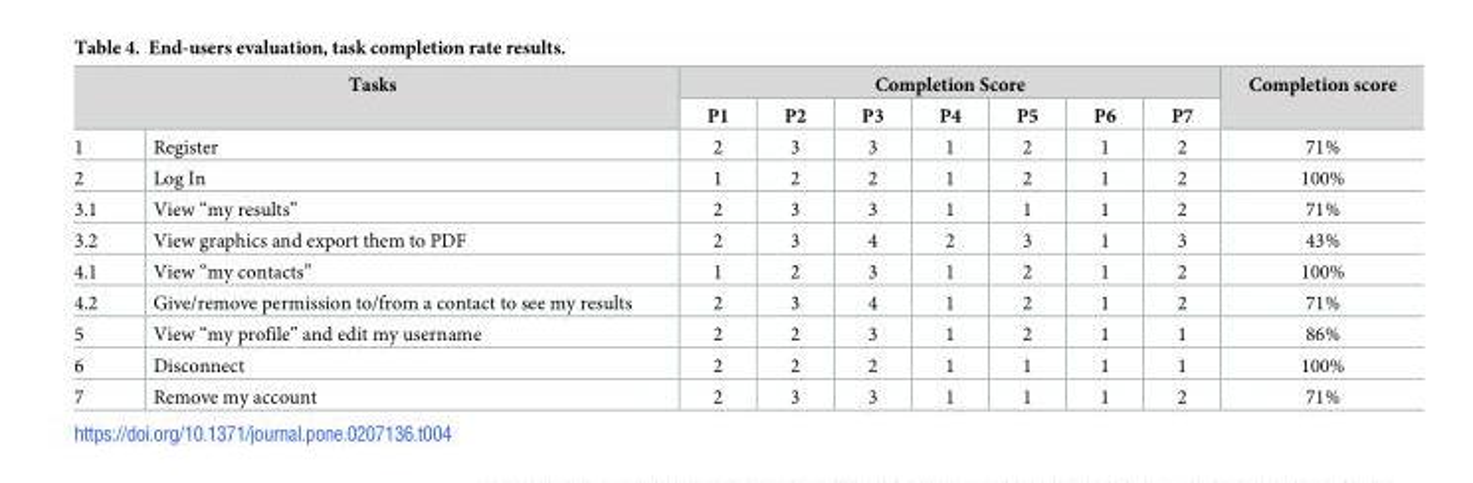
<table><thead><tr><td rowspan="2" colspan="2">Tasks</td><td colspan="7">Completion Score</td><td rowspan="3">Completion score 71%</td></tr><tr><td rowspan="2">P1 2</td><td rowspan="2">P2 3</td><td rowspan="2">P3 3</td><td rowspan="2">P4 1</td><td rowspan="2">P5 2</td><td rowspan="2">P6 1</td><td rowspan="2">P7 2</td></tr><tr><td>1</td><td>Register</td></tr></thead><tbody><tr><td>2</td><td>Log In</td><td>1</td><td>2</td><td>2</td><td>1</td><td>2</td><td>1</td><td>2</td><td>100%</td></tr><tr><td>3.1</td><td>View “my results”</td><td>2</td><td>3</td><td>3</td><td>1</td><td>1</td><td>1</td><td>2</td><td>71%</td></tr><tr><td>3.2</td><td>View graphics and export them to PDF</td><td>2</td><td>3</td><td>4</td><td>2</td><td>3</td><td>1</td><td>3</td><td>43%</td></tr><tr><td>4.1</td><td>View “my contacts”</td><td>1</td><td>2</td><td>3</td><td>1</td><td>2</td><td>1</td><td>2</td><td>100%</td></tr><tr><td>4.2</td><td>Give/remove permission to/from a contact to see my results</td><td>2</td><td>3</td><td>4</td><td>1</td><td>2</td><td>1</td><td>2</td><td>71%</td></tr><tr><td>5</td><td>View “my profile” and edit my username</td><td>2</td><td>2</td><td>3</td><td>1</td><td>2</td><td>1</td><td>1</td><td>86%</td></tr><tr><td>6</td><td>Disconnect</td><td>2</td><td>2</td><td>2</td><td>1</td><td>1</td><td>1</td><td>1</td><td>100%</td></tr><tr><td>7</td><td>Remove my account</td><td>2</td><td>3</td><td>3</td><td>1</td><td>1</td><td>1</td><td>2</td><td>71%</td></tr></tbody></table>